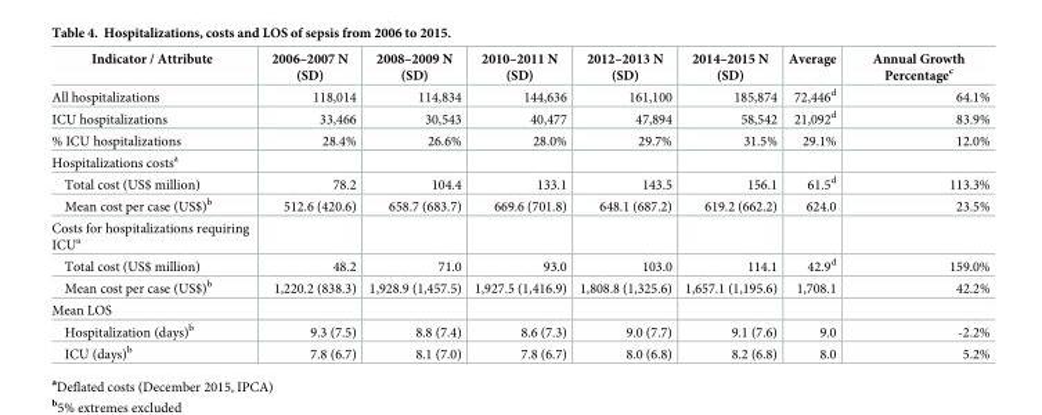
<table><thead><tr><td>Indicator / Attribute</td><td>2006–2007 N (SD)</td><td>2008–2009 N (SD)</td><td>2010–2011 N (SD)</td><td>2012–2013 N (SD)</td><td>2014–2015 N (SD)</td><td>Average</td><td>Annual Growth Percentage<sup>c</sup></td></tr></thead><tbody><tr><td>All hospitalizations</td><td>118,014</td><td>114,834</td><td>144,636</td><td>161,100</td><td>185,874</td><td>72,446<sup>d</sup></td><td>64.1%</td></tr><tr><td>ICU hospitalizations</td><td>33,466</td><td>30,543</td><td>40,477</td><td>47,894</td><td>58,542</td><td>21,092<sup>d</sup></td><td>83.9%</td></tr><tr><td>% ICU hospitalizations</td><td>28.4%</td><td>26.6%</td><td>28.0%</td><td>29.7%</td><td>31.5%</td><td>29.1%</td><td>12.0%</td></tr><tr><td colspan="8">Hospitalizations costs<sup>a</sup></td></tr><tr><td>Total cost (US$ million)</td><td>78.2</td><td>104.4</td><td>133.1</td><td>143.5</td><td>156.1</td><td>61.5<sup>d</sup></td><td>113.3%</td></tr><tr><td>Mean cost per case (US$)<sup>b</sup></td><td>512.6 (420.6)</td><td>658.7 (683.7)</td><td>669.6 (701.8)</td><td>648.1 (687.2)</td><td>619.2 (662.2)</td><td>624.0</td><td>23.5%</td></tr><tr><td colspan="8">Costs for hospitalizations requiring ICU<sup>a</sup></td></tr><tr><td>Total cost (US$ million)</td><td>48.2</td><td>71.0</td><td>93.0</td><td>103.0</td><td>114.1</td><td>42.9<sup>d</sup></td><td>159.0%</td></tr><tr><td>Mean cost per case (US$)<sup>b</sup></td><td>1,220.2 (838.3)</td><td>1,928.9 (1,457.5)</td><td>1,927.5 (1,416.9)</td><td>1,808.8 (1,325.6)</td><td>1,657.1 (1,195.6)</td><td>1,708.1</td><td>42.2%</td></tr><tr><td colspan="8">Mean LOS</td></tr><tr><td>Hospitalization (days)<sup>b</sup></td><td>9.3 (7.5)</td><td>8.8 (7.4)</td><td>8.6 (7.3)</td><td>9.0 (7.7)</td><td>9.1 (7.6)</td><td>9.0</td><td>-2.2%</td></tr><tr><td>ICU (days)<sup>b</sup></td><td>7.8 (6.7)</td><td>8.1 (7.0)</td><td>7.8 (6.7)</td><td>8.0 (6.8)</td><td>8.2 (6.8)</td><td>8.0</td><td>5.2%</td></tr></tbody></table>